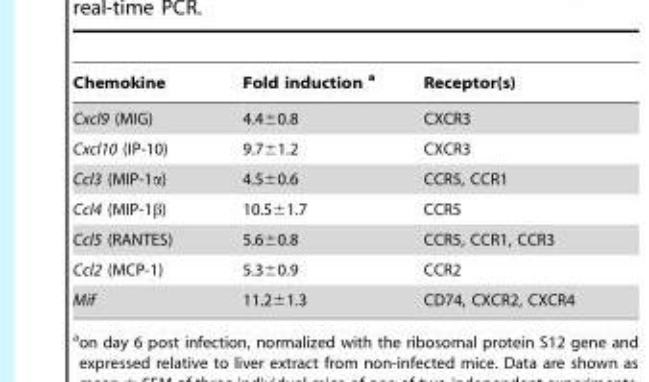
<table><thead><tr><td>Chemokine</td><td>Fold induction a</td><td>Receptor(s)</td></tr></thead><tbody><tr><td>Cxcl9 (MIG)</td><td>4.4±0.8</td><td>CXCR3</td></tr><tr><td>Cxcl10 (IP-10)</td><td>9.7±1.2</td><td>CXCR3</td></tr><tr><td>Ccl3 (MIP-1α)</td><td>4.5±0.6</td><td>CCR5, CCR1</td></tr><tr><td>Ccl4 (MIP-1β)</td><td>10.5±1.7</td><td>CCR5</td></tr><tr><td>Ccl5 (RANTES)</td><td>5.6±0.8</td><td>CCR5, CCR1, CCR3</td></tr><tr><td>Ccl2 (MCP-1)</td><td>5.3±0.9</td><td>CCR2</td></tr><tr><td>Mif</td><td>11.2±1.3</td><td>CD74, CXCR2, CXCR4</td></tr></tbody></table>